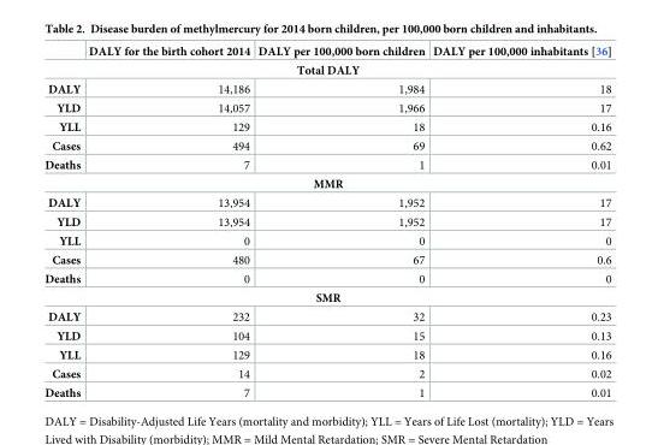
<table><thead><tr><td></td><td>DALY for the birth cohort 2014</td><td>DALY per 100,000 born children</td><td>DALY per 100,000 inhabitants [36]</td></tr></thead><tbody><tr><td colspan="4">Total DALY</td></tr><tr><td>DALY</td><td>14,186</td><td>1,984</td><td>18</td></tr><tr><td>YLD</td><td>14,057</td><td>1,966</td><td>17</td></tr><tr><td>YLL</td><td>129</td><td>18</td><td>0.16</td></tr><tr><td>Cases</td><td>494</td><td>69</td><td>0.62</td></tr><tr><td>Deaths</td><td>7</td><td>1</td><td>0.01</td></tr><tr><td colspan="4">MMR</td></tr><tr><td>DALY</td><td>13,954</td><td>1,952</td><td>17</td></tr><tr><td>YLD</td><td>13,954</td><td>1,952</td><td>17</td></tr><tr><td>YLL</td><td>0</td><td>0</td><td>0</td></tr><tr><td>Cases</td><td>480</td><td>67</td><td>0.6</td></tr><tr><td>Deaths</td><td>0</td><td>0</td><td>0</td></tr><tr><td colspan="4">SMR</td></tr><tr><td>DALY</td><td>232</td><td>32</td><td>0.23</td></tr><tr><td>YLD</td><td>104</td><td>15</td><td>0.13</td></tr><tr><td>YLL</td><td>129</td><td>18</td><td>0.16</td></tr><tr><td>Cases</td><td>14</td><td>2</td><td>0.02</td></tr><tr><td>Deaths</td><td>7</td><td>1</td><td>0.01</td></tr></tbody></table>